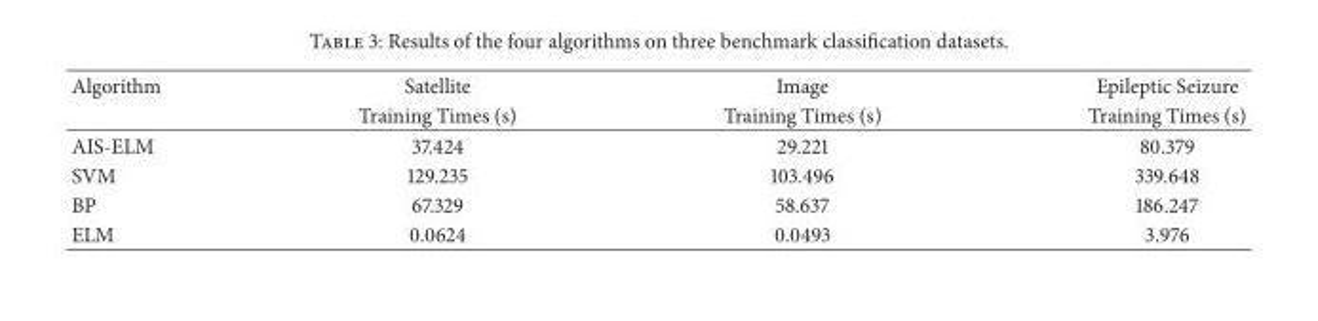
<table><thead><tr><td rowspan="2">Algorithm</td><td rowspan="2">Satellite Training Times (s)</td><td rowspan="2">Image Training Times (s)</td><td rowspan="2">Epileptic Seizure Training Times (s)</td></tr><tr></tr></thead><tbody><tr><td>AIS-ELM</td><td>37.424</td><td>29.221</td><td>80.379</td></tr><tr><td>SVM</td><td>129.235</td><td>103.496</td><td>339.648</td></tr><tr><td>BP</td><td>67.329</td><td>58.637</td><td>186.247</td></tr><tr><td>ELM</td><td>0.0624</td><td>0.0493</td><td>3.976</td></tr></tbody></table>